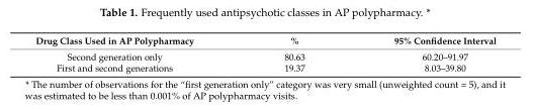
<table><thead><tr><td>Drug Class Used in AP Polypharmacy</td><td>%</td><td>95% Confidence Interval</td></tr></thead><tbody><tr><td>Second generation only</td><td>80.63</td><td>60.20–91.97</td></tr><tr><td>First and second generations</td><td>19.37</td><td>8.03–39.80</td></tr></tbody></table>